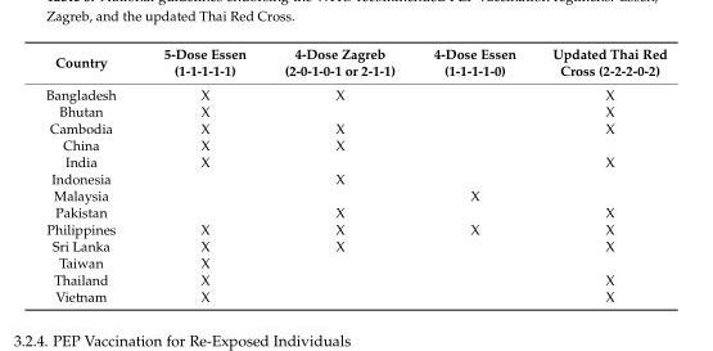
<table><thead><tr><td>Country</td><td>5-Dose Essen (1-1-1-1-1)</td><td>4-Dose Zagreb (2-0-1-0-1 or 2-1-1)</td><td>4-Dose Essen (1-1-1-1-0)</td><td>Updated Thai Red Cross (2-2-2-0-2)</td></tr></thead><tbody><tr><td>Bangladesh</td><td>X</td><td>X</td><td></td><td>X</td></tr><tr><td>Bhutan</td><td>X</td><td></td><td></td><td>X</td></tr><tr><td>Cambodia</td><td>X</td><td>X</td><td></td><td>X</td></tr><tr><td>China</td><td>X</td><td>X</td><td></td><td></td></tr><tr><td>India</td><td>X</td><td></td><td></td><td>X</td></tr><tr><td>Indonesia</td><td></td><td>X</td><td></td><td></td></tr><tr><td>Malaysia</td><td></td><td></td><td>X</td><td></td></tr><tr><td>Pakistan</td><td></td><td>X</td><td></td><td>X</td></tr><tr><td>Philippines</td><td>X</td><td>X</td><td>X</td><td>X</td></tr><tr><td>Sri Lanka</td><td>X</td><td>X</td><td></td><td>X</td></tr><tr><td>Taiwan</td><td>X</td><td></td><td></td><td></td></tr><tr><td>Thailand</td><td>X</td><td></td><td></td><td>X</td></tr><tr><td>Vietnam</td><td>X</td><td></td><td></td><td>X</td></tr></tbody></table>